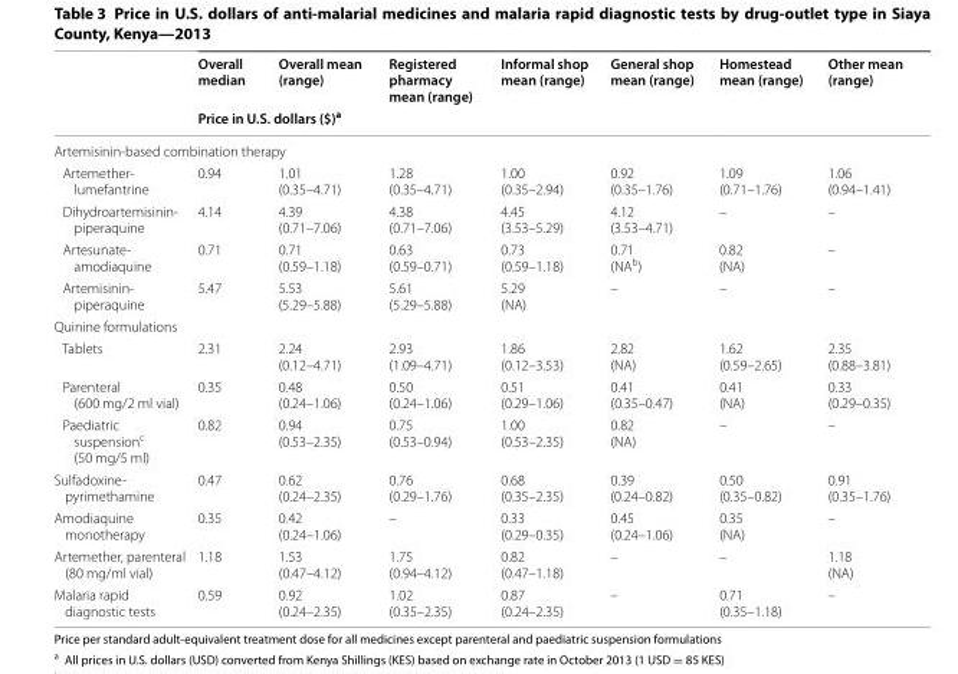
<table><thead><tr><td rowspan="2"></td><td>Overall median</td><td>Overall mean (range)</td><td>Registered pharmacy mean (range)</td><td>Informal shop mean (range)</td><td>General shop mean (range)</td><td>Homestead mean (range)</td><td>Other mean (range)</td></tr><tr><td colspan="7">Price in U.S. dollars ($)<sup>a</sup></td></tr></thead><tbody><tr><td colspan="8">Artemisinin-based combination therapy</td></tr><tr><td>Artemether- lumefantrine</td><td>0.94</td><td>1.01 (0.35–4.71)</td><td>1.28 (0.35–4.71)</td><td>1.00 (0.35–2.94)</td><td>0.92 (0.35–1.76)</td><td>1.09 (0.71–1.76)</td><td>1.06 (0.94–1.41)</td></tr><tr><td>Dihydroartemisinin- piperaquine</td><td>4.14</td><td>4.39 (0.71–7.06)</td><td>4.38 (0.71–7.06)</td><td>4.45 (3.53–5.29)</td><td>4.12 (3.53–4.71)</td><td>–</td><td>–</td></tr><tr><td>Artesunate- amodiaquine</td><td>0.71</td><td>0.71 (0.59–1.18)</td><td>0.63 (0.59–0.71)</td><td>0.73 (0.59–1.18)</td><td>0.71 (NA<sup>b</sup>)</td><td>0.82 (NA)</td><td>–</td></tr><tr><td>Artemisinin- piperaquine</td><td>5.47</td><td>5.53 (5.29–5.88)</td><td>5.61 (5.29–5.88)</td><td>5.29 (NA)</td><td>–</td><td>–</td><td>–</td></tr><tr><td colspan="8">Quinine formulations</td></tr><tr><td>Tablets</td><td>2.31</td><td>2.24 (0.12–4.71)</td><td>2.93 (1.09–4.71)</td><td>1.86 (0.12–3.53)</td><td>2.82 (NA)</td><td>1.62 (0.59–2.65)</td><td>2.35 (0.88–3.81)</td></tr><tr><td>Parenteral (600 mg/2 ml vial)</td><td>0.35</td><td>0.48 (0.24–1.06)</td><td>0.50 (0.24–1.06)</td><td>0.51 (0.29–1.06)</td><td>0.41 (0.35–0.47)</td><td>0.41 (NA)</td><td>0.33 (0.29–0.35)</td></tr><tr><td>Paediatric suspension<sup>c</sup> (50 mg/5 ml)</td><td>0.82</td><td>0.94 (0.53–2.35)</td><td>0.75 (0.53–0.94)</td><td>1.00 (0.53–2.35)</td><td>0.82 (NA)</td><td>–</td><td>–</td></tr><tr><td>Sulfadoxine- pyrimethamine</td><td>0.47</td><td>0.62 (0.24–2.35)</td><td>0.76 (0.29–1.76)</td><td>0.68 (0.35–2.35)</td><td>0.39 (0.24–0.82)</td><td>0.50 (0.35–0.82)</td><td>0.91 (0.35–1.76)</td></tr><tr><td>Amodiaquine monotherapy</td><td>0.35</td><td>0.42 (0.24–1.06)</td><td>–</td><td>0.33 (0.29–0.35)</td><td>0.45 (0.24–1.06)</td><td>0.35 (NA)</td><td>–</td></tr><tr><td>Artemether, parenteral (80 mg/ml vial)</td><td>1.18</td><td>1.53 (0.47–4.12)</td><td>1.75 (0.94–4.12)</td><td>0.82 (0.47–1.18)</td><td>–</td><td>–</td><td>1.18 (NA)</td></tr><tr><td>Malaria rapid diagnostic tests</td><td>0.59</td><td>0.92 (0.24–2.35)</td><td>1.02 (0.35–2.35)</td><td>0.87 (0.24–2.35)</td><td>–</td><td>0.71 (0.35–1.18)</td><td>–</td></tr></tbody></table>